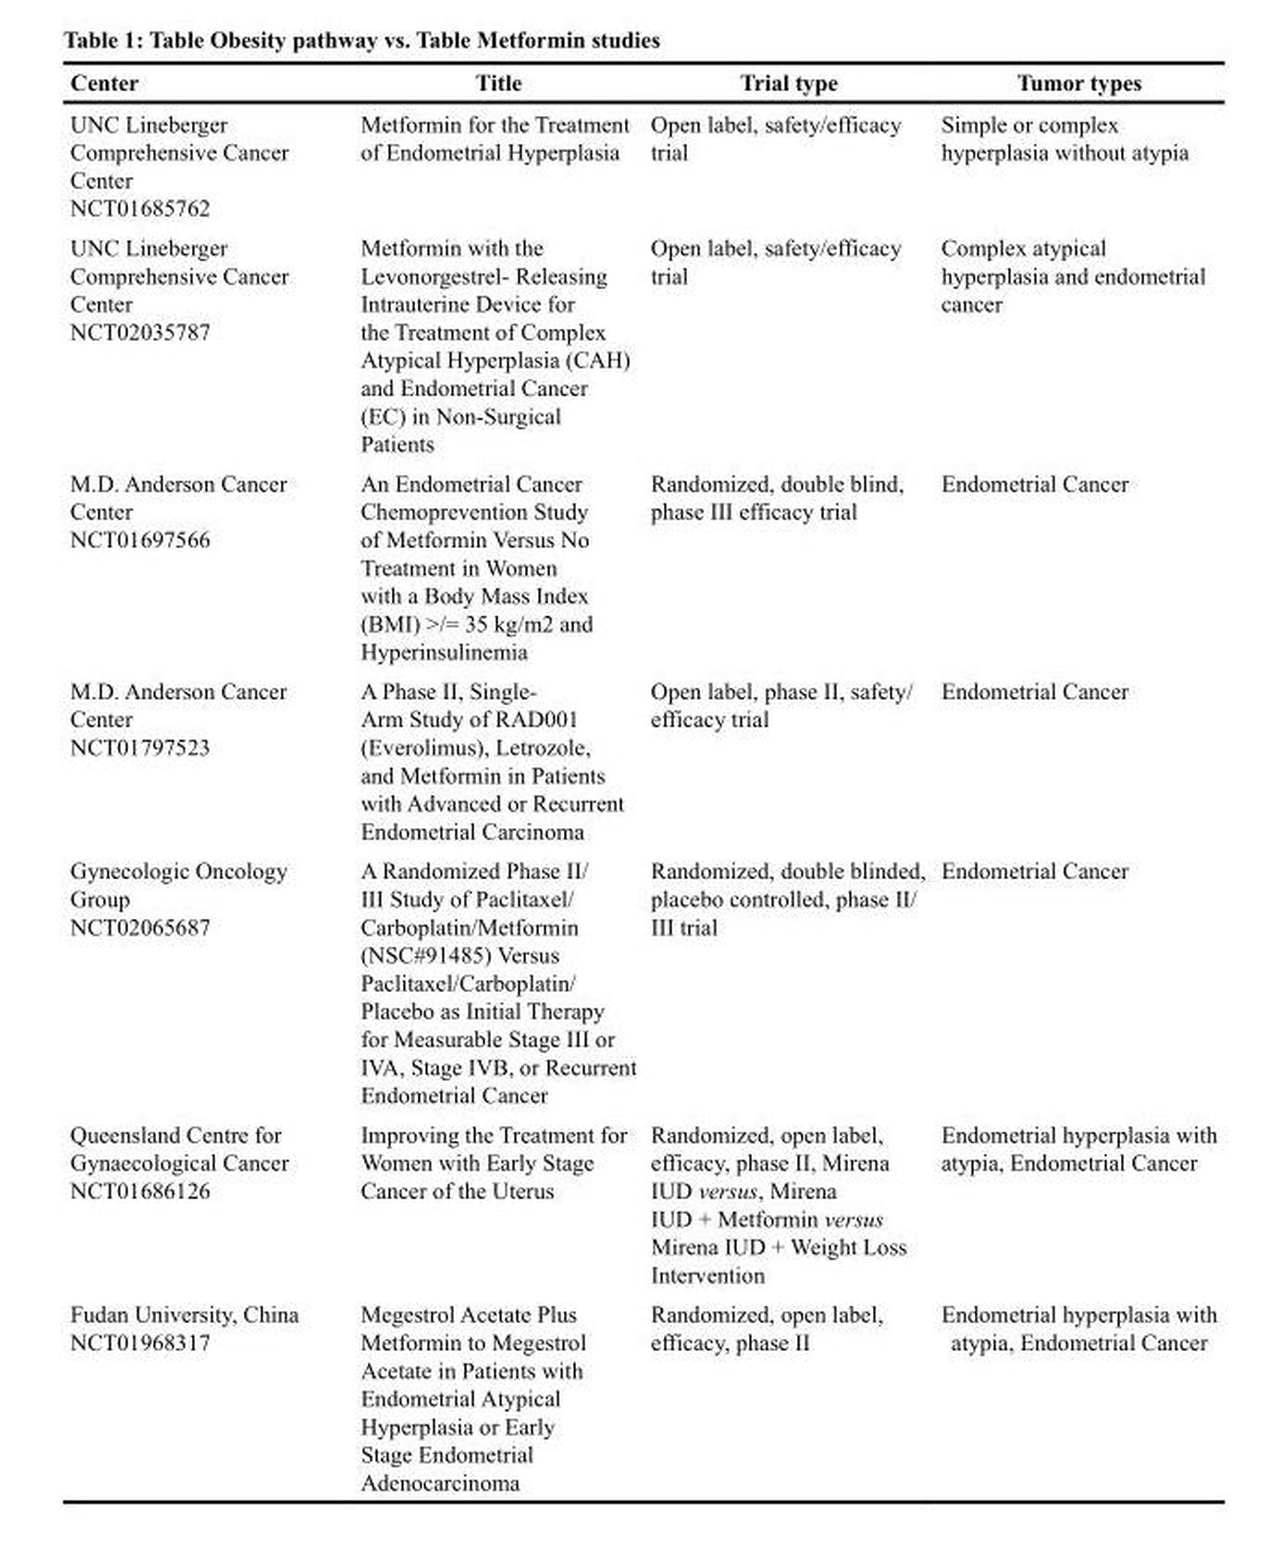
<table><thead><tr><td>Center</td><td>Title</td><td>Trial type</td><td>Tumor types</td></tr></thead><tbody><tr><td>UNC Lineberger Comprehensive Cancer Center NCT01685762</td><td>Metformin for the Treatment of Endometrial Hyperplasia</td><td>Open label, safety/efficacy trial</td><td>Simple or complex hyperplasia without atypia</td></tr><tr><td>UNC Lineberger Comprehensive Cancer Center NCT02035787</td><td>Metformin with the Levonorgestrel- Releasing Intrauterine Device for the Treatment of Complex Atypical Hyperplasia (CAH) and Endometrial Cancer (EC) in Non-Surgical Patients</td><td>Open label, safety/efficacy trial</td><td>Complex atypical hyperplasia and endometrial cancer</td></tr><tr><td>M.D. Anderson Cancer Center NCT01697566</td><td>An Endometrial Cancer Chemoprevention Study of Metformin Versus No Treatment in Women with a Body Mass Index (BMI) &gt;/= 35 kg/m2 and Hyperinsulinemia</td><td>Randomized, double blind, phase III efficacy trial</td><td>Endometrial Cancer</td></tr><tr><td>M.D. Anderson Cancer Center NCT01797523</td><td>A Phase II, Single- Arm Study of RAD001 (Everolimus), Letrozole, and Metformin in Patients with Advanced or Recurrent Endometrial Carcinoma</td><td>Open label, phase II, safety/ efficacy trial</td><td>Endometrial Cancer</td></tr><tr><td>Gynecologic Oncology Group NCT02065687</td><td>A Randomized Phase II/ III Study of Paclitaxel/ Carboplatin/Metformin (NSC#91485) Versus Paclitaxel/Carboplatin/ Placebo as Initial Therapy for Measurable Stage III or IVA, Stage IVB, or Recurrent Endometrial Cancer</td><td>Randomized, double blinded, placebo controlled, phase II/ III trial</td><td>Endometrial Cancer</td></tr><tr><td>Queensland Centre for Gynaecological Cancer NCT01686126</td><td>Improving the Treatment for Women with Early Stage Cancer of the Uterus</td><td>Randomized, open label, efficacy, phase II, Mirena IUD versus, Mirena IUD + Metformin versus Mirena IUD + Weight Loss Intervention</td><td>Endometrial hyperplasia with atypia, Endometrial Cancer</td></tr><tr><td>Fudan University, China NCT01968317</td><td>Megestrol Acetate Plus Metformin to Megestrol Acetate in Patients with Endometrial Atypical Hyperplasia or Early Stage Endometrial Adenocarcinoma</td><td>Randomized, open label, efficacy, phase II</td><td>Endometrial hyperplasia with atypia, Endometrial Cancer</td></tr></tbody></table>